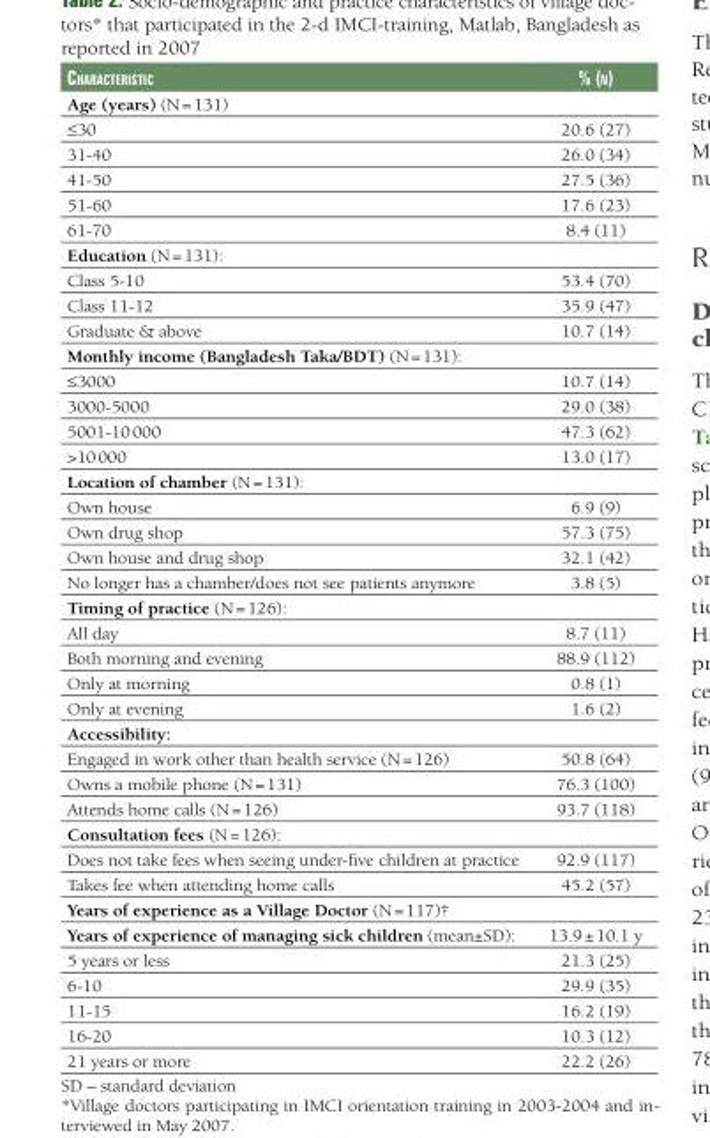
<table><thead><tr><td>charactEristic</td><td>% (n)</td></tr></thead><tbody><tr><td colspan="2">Age (years) (N = 131)</td></tr><tr><td>≤30</td><td>20.6 (27)</td></tr><tr><td>31-40</td><td>26.0 (34)</td></tr><tr><td>41-50</td><td>27.5 (36)</td></tr><tr><td>51-60</td><td>17.6 (23)</td></tr><tr><td>61-70</td><td>8.4 (11)</td></tr><tr><td colspan="2">Education (N = 131):</td></tr><tr><td>Class 5-10</td><td>53.4 (70)</td></tr><tr><td>Class 11-12</td><td>35.9 (47)</td></tr><tr><td>Graduate &amp; above</td><td>10.7 (14)</td></tr><tr><td colspan="2">Monthly income (Bangladesh Taka/BDT) (N = 131):</td></tr><tr><td>≤3000</td><td>10.7 (14)</td></tr><tr><td>3000-5000</td><td>29.0 (38)</td></tr><tr><td>5001-10 000</td><td>47.3 (62)</td></tr><tr><td>&gt;10 000</td><td>13.0 (17)</td></tr><tr><td colspan="2">Location of chamber (N = 131):</td></tr><tr><td>Own house</td><td>6.9 (9)</td></tr><tr><td>Own drug shop</td><td>57.3 (75)</td></tr><tr><td>Own house and drug shop</td><td>32.1 (42)</td></tr><tr><td>No longer has a chamber/does not see patients anymore</td><td>3.8 (5)</td></tr><tr><td colspan="2">Timing of practice (N = 126):</td></tr><tr><td>All day</td><td>8.7 (11)</td></tr><tr><td>Both morning and evening</td><td>88.9 (112)</td></tr><tr><td>Only at morning</td><td>0.8 (1)</td></tr><tr><td>Only at evening</td><td>1.6 (2)</td></tr><tr><td colspan="2">Accessibility:</td></tr><tr><td>Engaged in work other than health service (N = 126)</td><td>50.8 (64)</td></tr><tr><td>Owns a mobile phone (N = 131)</td><td>76.3 (100)</td></tr><tr><td>Attends home calls (N = 126)</td><td>93.7 (118)</td></tr><tr><td colspan="2">Consultation fees (N = 126):</td></tr><tr><td>Does not take fees when seeing under-five children at practice</td><td>92.9 (117)</td></tr><tr><td>Takes fee when attending home calls</td><td>45.2 (57)</td></tr><tr><td colspan="2">Years of experience as a Village Doctor (N = 117)†</td></tr><tr><td>Years of experience of managing sick children (mean±SD):</td><td>13.9 ± 10.1 y</td></tr><tr><td>5 years or less</td><td>21.3 (25)</td></tr><tr><td>6-10</td><td>29.9 (35)</td></tr><tr><td>11-15</td><td>16.2 (19)</td></tr><tr><td>16-20</td><td>10.3 (12)</td></tr><tr><td>21 years or more</td><td>22.2 (26)</td></tr></tbody></table>